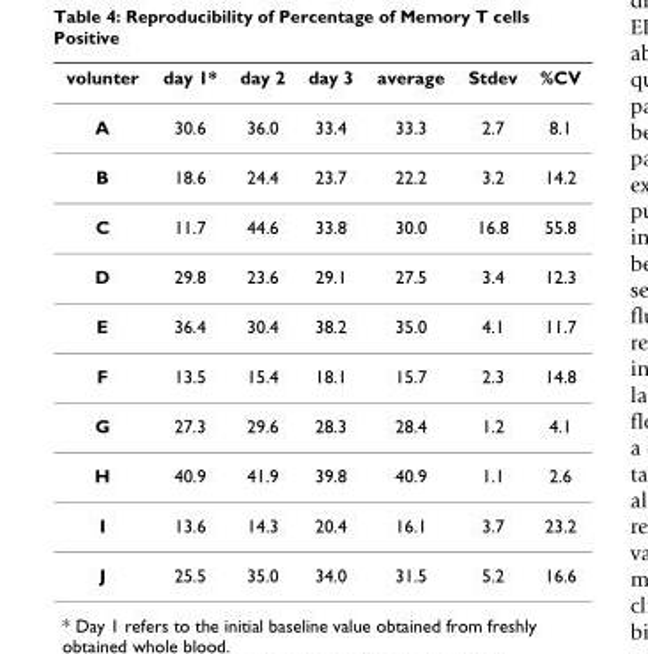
<table><thead><tr><td>volunter</td><td>day 1*</td><td>day 2</td><td>day 3</td><td>average</td><td>Stdev</td><td>%CV</td></tr></thead><tbody><tr><td>A</td><td>30.6</td><td>36.0</td><td>33.4</td><td>33.3</td><td>2.7</td><td>8.1</td></tr><tr><td>B</td><td>18.6</td><td>24.4</td><td>23.7</td><td>22.2</td><td>3.2</td><td>14.2</td></tr><tr><td>C</td><td>11.7</td><td>44.6</td><td>33.8</td><td>30.0</td><td>16.8</td><td>55.8</td></tr><tr><td>D</td><td>29.8</td><td>23.6</td><td>29.1</td><td>27.5</td><td>3.4</td><td>12.3</td></tr><tr><td>E</td><td>36.4</td><td>30.4</td><td>38.2</td><td>35.0</td><td>4.1</td><td>11.7</td></tr><tr><td>F</td><td>13.5</td><td>15.4</td><td>18.1</td><td>15.7</td><td>2.3</td><td>14.8</td></tr><tr><td>G</td><td>27.3</td><td>29.6</td><td>28.3</td><td>28.4</td><td>1.2</td><td>4.1</td></tr><tr><td>H</td><td>40.9</td><td>41.9</td><td>39.8</td><td>40.9</td><td>1.1</td><td>2.6</td></tr><tr><td>I</td><td>13.6</td><td>14.3</td><td>20.4</td><td>16.1</td><td>3.7</td><td>23.2</td></tr><tr><td>J</td><td>25.5</td><td>35.0</td><td>34.0</td><td>31.5</td><td>5.2</td><td>16.6</td></tr></tbody></table>